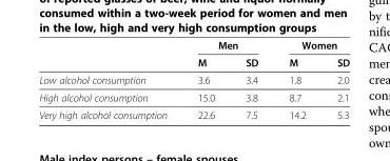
<table><thead><tr><td rowspan="2"></td><td colspan="2">Men</td><td colspan="2">Women</td></tr><tr><td>M</td><td>SD</td><td>M</td><td>SD</td></tr></thead><tbody><tr><td>Low alcohol consumption</td><td>3.6</td><td>3.4</td><td>1.8</td><td>2.0</td></tr><tr><td>High alcohol consumption</td><td>15.0</td><td>3.8</td><td>8.7</td><td>2.1</td></tr><tr><td>Very high alcohol consumption</td><td>22.6</td><td>7.5</td><td>14.2</td><td>5.3</td></tr></tbody></table>